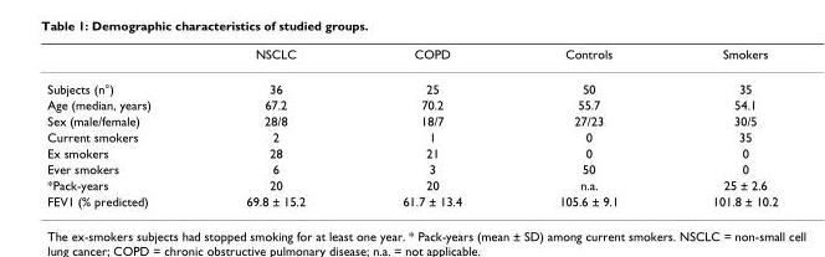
<table><thead><tr><td></td><td>NSCLC</td><td>COPD</td><td>Controls</td><td>Smokers</td></tr></thead><tbody><tr><td>Subjects (n°)</td><td>36</td><td>25</td><td>50</td><td>35</td></tr><tr><td>Age (median, years)</td><td>67.2</td><td>70.2</td><td>55.7</td><td>54.1</td></tr><tr><td>Sex (male/female)</td><td>28/8</td><td>18/7</td><td>27/23</td><td>30/5</td></tr><tr><td>Current smokers</td><td>2</td><td>1</td><td>0</td><td>35</td></tr><tr><td>Ex smokers</td><td>28</td><td>21</td><td>0</td><td>0</td></tr><tr><td>Ever smokers</td><td>6</td><td>3</td><td>50</td><td>0</td></tr><tr><td>*Pack-years</td><td>20</td><td>20</td><td>n.a.</td><td>25 ± 2.6</td></tr><tr><td>FEV1 (% predicted)</td><td>69.8 ± 15.2</td><td>61.7 ± 13.4</td><td>105.6 ± 9.1</td><td>101.8 ± 10.2</td></tr></tbody></table>